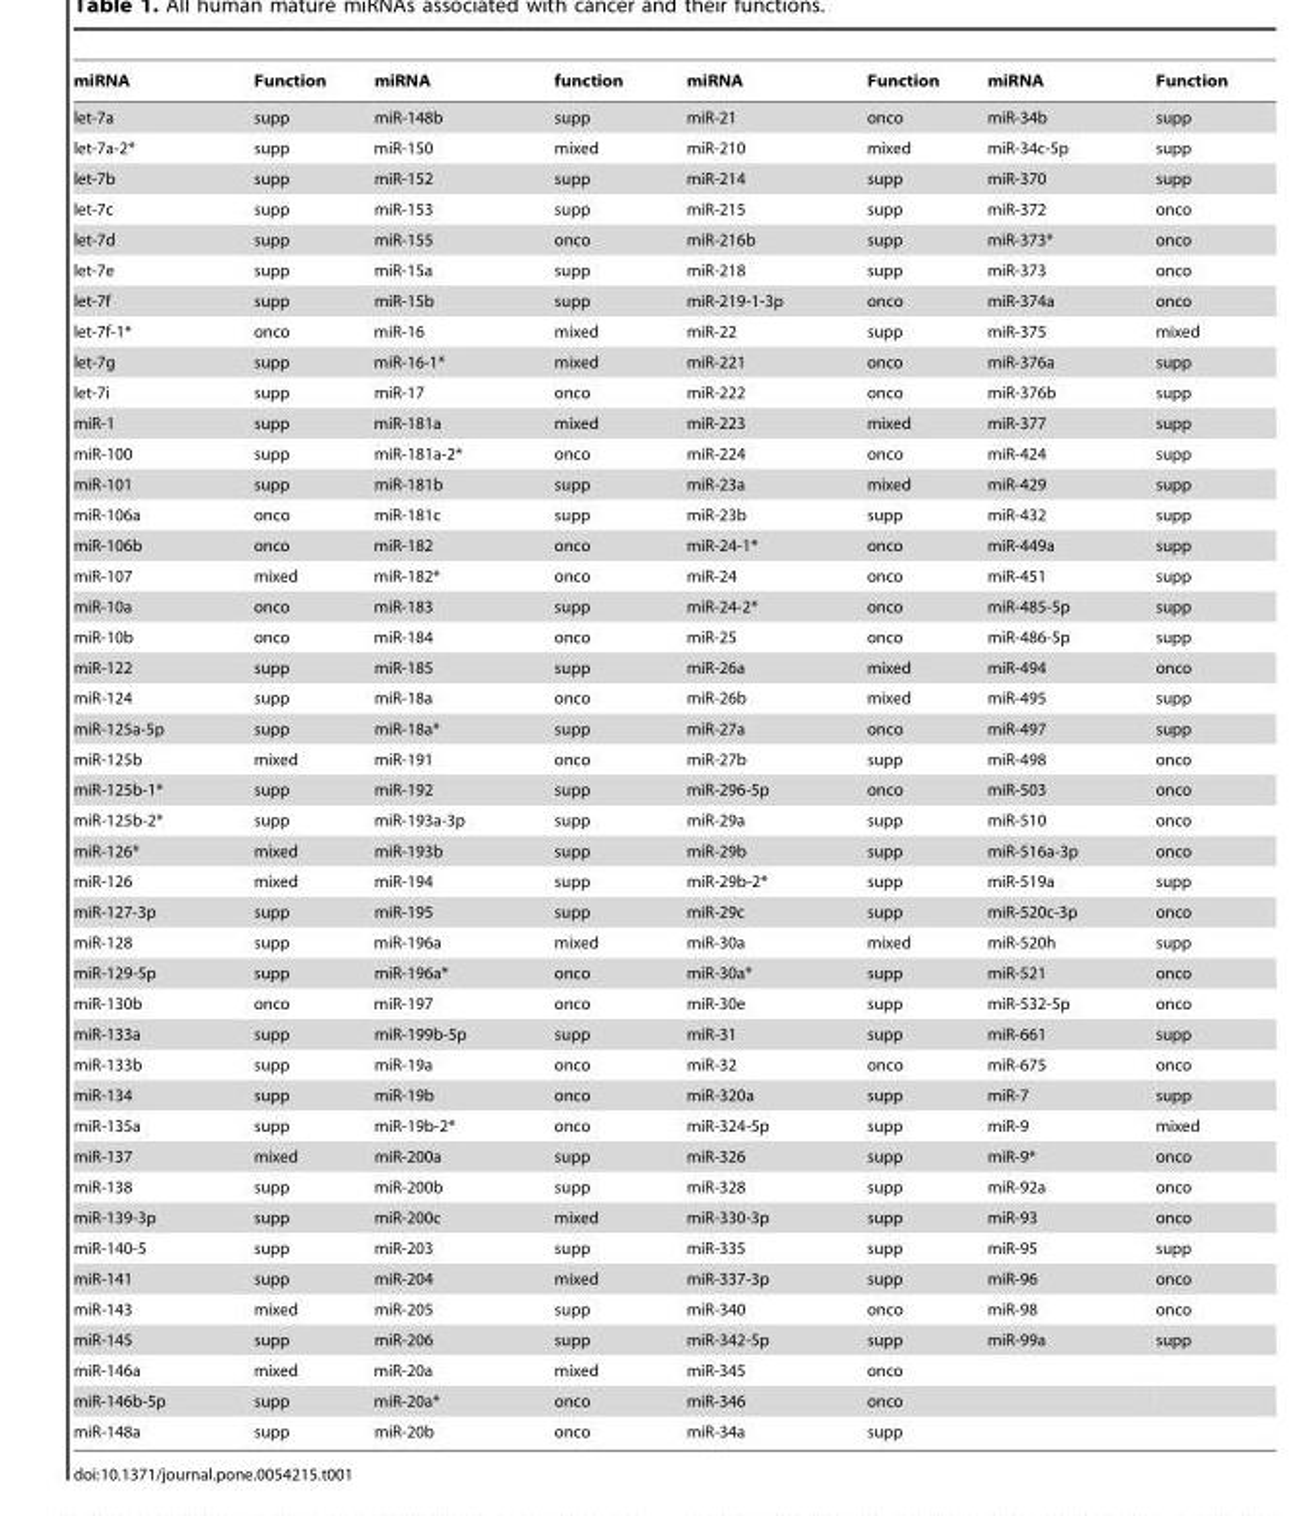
<table><thead><tr><td>miRNA</td><td>Function</td><td>miRNA</td><td>function</td><td>miRNA</td><td>Function</td><td>miRNA</td><td>Function</td></tr></thead><tbody><tr><td>let-7a</td><td>supp</td><td>miR-148b</td><td>supp</td><td>miR-21</td><td>onco</td><td>miR-34b</td><td>supp</td></tr><tr><td>let-7a-2*</td><td>supp</td><td>miR-150</td><td>mixed</td><td>miR-210</td><td>mixed</td><td>miR-34c-5p</td><td>supp</td></tr><tr><td>let-7b</td><td>supp</td><td>miR-152</td><td>supp</td><td>miR-214</td><td>supp</td><td>miR-370</td><td>supp</td></tr><tr><td>let-7c</td><td>supp</td><td>miR-153</td><td>supp</td><td>miR-215</td><td>supp</td><td>miR-372</td><td>onco</td></tr><tr><td>let-7d</td><td>supp</td><td>miR-155</td><td>onco</td><td>miR-216b</td><td>supp</td><td>miR-373*</td><td>onco</td></tr><tr><td>let-7e</td><td>supp</td><td>miR-15a</td><td>supp</td><td>miR-218</td><td>supp</td><td>miR-373</td><td>onco</td></tr><tr><td>let-7f</td><td>supp</td><td>miR-15b</td><td>supp</td><td>miR-219-1-3p</td><td>onco</td><td>miR-374a</td><td>onco</td></tr><tr><td>let-7f-1*</td><td>onco</td><td>miR-16</td><td>mixed</td><td>miR-22</td><td>supp</td><td>miR-375</td><td>mixed</td></tr><tr><td>let-7g</td><td>supp</td><td>miR-16-1*</td><td>mixed</td><td>miR-221</td><td>onco</td><td>miR-376a</td><td>supp</td></tr><tr><td>let-7i</td><td>supp</td><td>miR-17</td><td>onco</td><td>miR-222</td><td>onco</td><td>miR-376b</td><td>supp</td></tr><tr><td>miR-1</td><td>supp</td><td>miR-181a</td><td>mixed</td><td>miR-223</td><td>mixed</td><td>miR-377</td><td>supp</td></tr><tr><td>miR-100</td><td>supp</td><td>miR-181a-2*</td><td>onco</td><td>miR-224</td><td>onco</td><td>miR-424</td><td>supp</td></tr><tr><td>miR-101</td><td>supp</td><td>miR-181b</td><td>supp</td><td>miR-23a</td><td>mixed</td><td>miR-429</td><td>supp</td></tr><tr><td>miR-106a</td><td>onco</td><td>miR-181c</td><td>supp</td><td>miR-23b</td><td>supp</td><td>miR-432</td><td>supp</td></tr><tr><td>miR-106b</td><td>onco</td><td>miR-182</td><td>onco</td><td>miR-24-1*</td><td>onco</td><td>miR-449a</td><td>supp</td></tr><tr><td>miR-107</td><td>mixed</td><td>miR-182*</td><td>onco</td><td>miR-24</td><td>onco</td><td>miR-451</td><td>supp</td></tr><tr><td>miR-10a</td><td>onco</td><td>miR-183</td><td>supp</td><td>miR-24-2*</td><td>onco</td><td>miR-485-5p</td><td>supp</td></tr><tr><td>miR-10b</td><td>onco</td><td>miR-184</td><td>onco</td><td>miR-25</td><td>onco</td><td>miR-486-5p</td><td>supp</td></tr><tr><td>miR-122</td><td>supp</td><td>miR-185</td><td>supp</td><td>miR-26a</td><td>mixed</td><td>miR-494</td><td>onco</td></tr><tr><td>miR-124</td><td>supp</td><td>miR-18a</td><td>onco</td><td>miR-26b</td><td>mixed</td><td>miR-495</td><td>supp</td></tr><tr><td>miR-125a-5p</td><td>supp</td><td>miR-18a*</td><td>supp</td><td>miR-27a</td><td>onco</td><td>miR-497</td><td>supp</td></tr><tr><td>miR-125b</td><td>mixed</td><td>miR-191</td><td>onco</td><td>miR-27b</td><td>supp</td><td>miR-498</td><td>onco</td></tr><tr><td>miR-125b-1*</td><td>supp</td><td>miR-192</td><td>supp</td><td>miR-296-5p</td><td>onco</td><td>miR-503</td><td>onco</td></tr><tr><td>miR-125b-2*</td><td>supp</td><td>miR-193a-3p</td><td>supp</td><td>miR-29a</td><td>supp</td><td>miR-510</td><td>onco</td></tr><tr><td>miR-126*</td><td>mixed</td><td>miR-193b</td><td>supp</td><td>miR-29b</td><td>supp</td><td>miR-516a-3p</td><td>onco</td></tr><tr><td>miR-126</td><td>mixed</td><td>miR-194</td><td>supp</td><td>miR-29b-2*</td><td>supp</td><td>miR-519a</td><td>supp</td></tr><tr><td>miR-127-3p</td><td>supp</td><td>miR-195</td><td>supp</td><td>miR-29c</td><td>supp</td><td>miR-520c-3p</td><td>onco</td></tr><tr><td>miR-128</td><td>supp</td><td>miR-196a</td><td>mixed</td><td>miR-30a</td><td>mixed</td><td>miR-520h</td><td>supp</td></tr><tr><td>miR-129-5p</td><td>supp</td><td>miR-196a*</td><td>onco</td><td>miR-30a*</td><td>supp</td><td>miR-521</td><td>onco</td></tr><tr><td>miR-130b</td><td>onco</td><td>miR-197</td><td>onco</td><td>miR-30e</td><td>supp</td><td>miR-532-5p</td><td>onco</td></tr><tr><td>miR-133a</td><td>supp</td><td>miR-199b-5p</td><td>supp</td><td>miR-31</td><td>supp</td><td>miR-661</td><td>supp</td></tr><tr><td>miR-133b</td><td>supp</td><td>miR-19a</td><td>onco</td><td>miR-32</td><td>onco</td><td>miR-675</td><td>onco</td></tr><tr><td>miR-134</td><td>supp</td><td>miR-19b</td><td>onco</td><td>miR-320a</td><td>supp</td><td>miR-7</td><td>supp</td></tr><tr><td>miR-135a</td><td>supp</td><td>miR-19b-2*</td><td>onco</td><td>miR-324-5p</td><td>supp</td><td>miR-9</td><td>mixed</td></tr><tr><td>miR-137</td><td>mixed</td><td>miR-200a</td><td>supp</td><td>miR-326</td><td>supp</td><td>miR-9*</td><td>onco</td></tr><tr><td>miR-138</td><td>supp</td><td>miR-200b</td><td>supp</td><td>miR-328</td><td>supp</td><td>miR-92a</td><td>onco</td></tr><tr><td>miR-139-3p</td><td>supp</td><td>miR-200c</td><td>mixed</td><td>miR-330-3p</td><td>supp</td><td>miR-93</td><td>onco</td></tr><tr><td>miR-140-5</td><td>supp</td><td>miR-203</td><td>supp</td><td>miR-335</td><td>supp</td><td>miR-95</td><td>supp</td></tr><tr><td>miR-141</td><td>supp</td><td>miR-204</td><td>mixed</td><td>miR-337-3p</td><td>supp</td><td>miR-96</td><td>onco</td></tr><tr><td>miR-143</td><td>mixed</td><td>miR-205</td><td>supp</td><td>miR-340</td><td>onco</td><td>miR-98</td><td>onco</td></tr><tr><td>miR-145</td><td>supp</td><td>miR-206</td><td>supp</td><td>miR-342-5p</td><td>supp</td><td>miR-99a</td><td>supp</td></tr><tr><td>miR-146a</td><td>mixed</td><td>miR-20a</td><td>mixed</td><td>miR-345</td><td>onco</td><td></td><td></td></tr><tr><td>miR-146b-5p</td><td>supp</td><td>miR-20a*</td><td>onco</td><td>miR-346</td><td>onco</td><td></td><td></td></tr><tr><td>miR-148a</td><td>supp</td><td>miR-20b</td><td>onco</td><td>miR-34a</td><td>supp</td><td></td><td></td></tr></tbody></table>